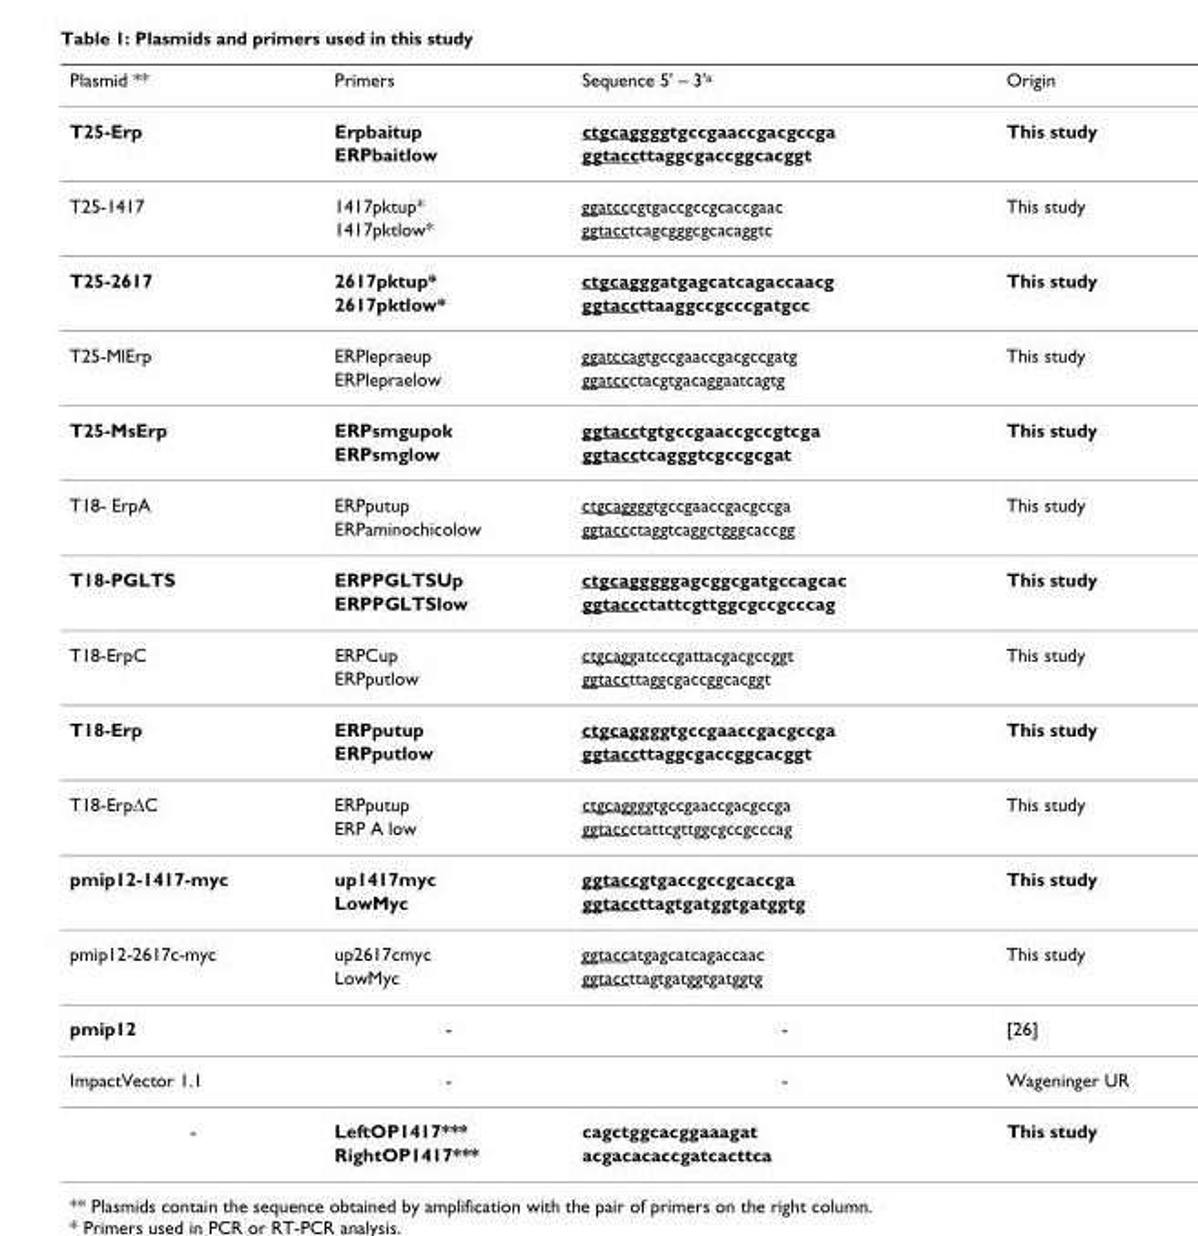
<table><thead><tr><td>Plasmid **</td><td>Primers</td><td>Sequence 5&#x27; – 3&#x27;<sup>a</sup></td><td>Origin</td></tr></thead><tbody><tr><td rowspan="2">T25-Erp</td><td>Erpbaitup</td><td>ctgcaggggtgccgaaccgacgccga</td><td>This study</td></tr><tr><td>ERPbaitlow</td><td>ggtaccttaggcgaccggcacggt</td><td></td></tr><tr><td rowspan="2">T25-1417</td><td>1417pktup*</td><td>ggatcccgtgaccgccgcaccgaac</td><td>This study</td></tr><tr><td>1417pktlow*</td><td>ggtacctcagcgggcgcacaggtc</td><td></td></tr><tr><td rowspan="2">T25-2617</td><td>2617pktup*</td><td>ctgcagggatgagcatcagaccaacg</td><td>This study</td></tr><tr><td>2617pktlow*</td><td>ggtaccttaaggccgcccgatgcc</td><td></td></tr><tr><td rowspan="2">T25-MlErp</td><td>ERPlepraeup</td><td>ggatccagtgccgaaccgacgccgatg</td><td>This study</td></tr><tr><td>ERPlepraelow</td><td>ggatccctacgtgacaggaatcagtg</td><td></td></tr><tr><td rowspan="2">T25-MsErp</td><td>ERPsmgupok</td><td>ggtacctgtgccgaaccgccgtcga</td><td>This study</td></tr><tr><td>ERPsmglow</td><td>ggtacctcagggtcgccgcgat</td><td></td></tr><tr><td rowspan="2">T18- ErpA</td><td>ERPputup</td><td>ctgcaggggtgccgaaccgacgccga</td><td>This study</td></tr><tr><td>ERPaminochicolow</td><td>ggtaccctaggtcaggctgggcaccgg</td><td></td></tr><tr><td rowspan="2">T18-PGLTS</td><td>ERPPGLTSUp</td><td>ctgcagggggagcggcgatgccagcac</td><td>This study</td></tr><tr><td>ERPPGLTSlow</td><td>ggtaccctattcgttggcgccgcccag</td><td></td></tr><tr><td rowspan="2">T18-ErpC</td><td>ERPCup</td><td>ctgcaggatcccgattacgacgccggt</td><td>This study</td></tr><tr><td>ERPputlow</td><td>ggtaccttaggcgaccggcacggt</td><td></td></tr><tr><td rowspan="2">T18-Erp</td><td>ERPputup</td><td>ctgcaggggtgccgaaccgacgccga</td><td>This study</td></tr><tr><td>ERPputlow</td><td>ggtaccttaggcgaccggcacggt</td><td></td></tr><tr><td rowspan="2">T18-ErpΔC</td><td>ERPputup</td><td>ctgcaggggtgccgaaccgacgccga</td><td>This study</td></tr><tr><td>ERP A low</td><td>ggtaccctattcgttggcgccgcccag</td><td></td></tr><tr><td rowspan="2">pmip12-1417-myc</td><td>up1417myc</td><td>ggtaccgtgaccgccgcaccga</td><td>This study</td></tr><tr><td>LowMyc</td><td>ggtaccttagtgatggtgatggtg</td><td></td></tr><tr><td rowspan="2">pmip12-2617c-myc</td><td>up2617cmyc</td><td>ggtaccatgagcatcagaccaac</td><td>This study</td></tr><tr><td>LowMyc</td><td>ggtaccttagtgatggtgatggtg</td><td></td></tr><tr><td>pmip12</td><td>-</td><td>-</td><td>[26]</td></tr><tr><td>ImpactVector 1.1</td><td>-</td><td>-</td><td>Wageninger UR</td></tr><tr><td rowspan="2">-</td><td>LeftOP1417***</td><td>cagctggcacggaaagat</td><td>This study</td></tr><tr><td>RightOP1417***</td><td>acgacacaccgatcacttca</td><td></td></tr></tbody></table>